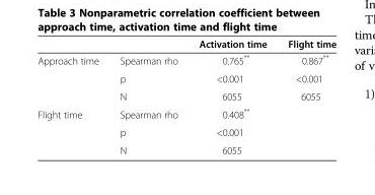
<table><thead><tr><td></td><td></td><td>Activation time</td><td>Flight time</td></tr></thead><tbody><tr><td rowspan="3">Approach time</td><td>Spearman rho</td><td>0.765**</td><td>0.867**</td></tr><tr><td>p</td><td>&lt;0.001</td><td>&lt;0.001</td></tr><tr><td>N</td><td>6055</td><td>6055</td></tr><tr><td rowspan="3">Flight time</td><td>Spearman rho</td><td>0.408**</td><td></td></tr><tr><td>p</td><td>&lt;0.001</td><td></td></tr><tr><td>N</td><td>6055</td><td></td></tr></tbody></table>